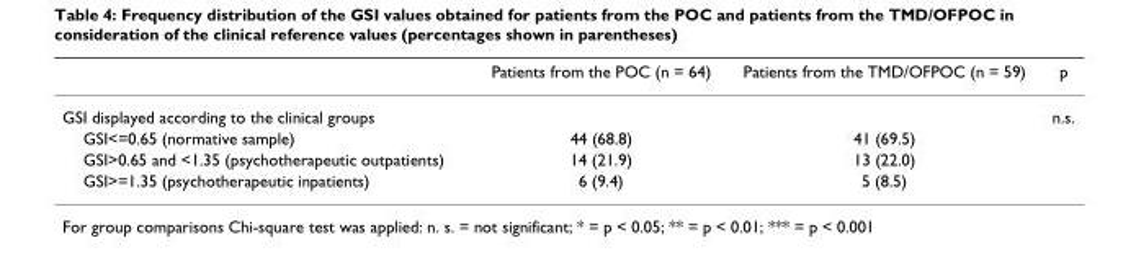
<table><thead><tr><td></td><td>Patients from the POC (n = 64)</td><td>Patients from the TMD/OFPOC (n = 59)</td><td>p</td></tr></thead><tbody><tr><td>GSI displayed according to the clinical groups</td><td></td><td></td><td>n.s.</td></tr><tr><td>GSI&lt;=0.65 (normative sample)</td><td>44 (68.8)</td><td>41 (69.5)</td><td></td></tr><tr><td>GSI&gt;0.65 and &lt;1.35 (psychotherapeutic outpatients)</td><td>14 (21.9)</td><td>13 (22.0)</td><td></td></tr><tr><td>GSI&gt;=1.35 (psychotherapeutic inpatients)</td><td>6 (9.4)</td><td>5 (8.5)</td><td></td></tr></tbody></table>